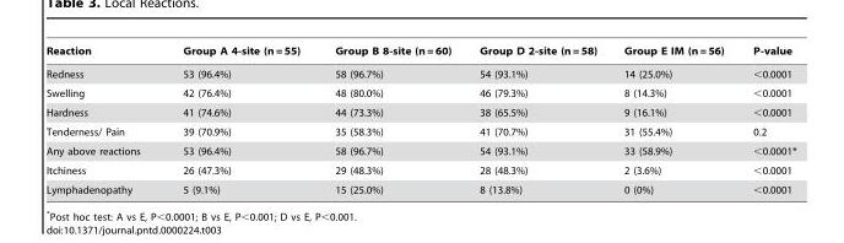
<table><thead><tr><td>Reaction</td><td>Group A 4-site (n = 55)</td><td>Group B 8-site (n = 60)</td><td>Group D 2-site (n = 58)</td><td>Group E IM (n = 56)</td><td>P-value</td></tr></thead><tbody><tr><td>Redness</td><td>53 (96.4%)</td><td>58 (96.7%)</td><td>54 (93.1%)</td><td>14 (25.0%)</td><td>&lt;0.0001</td></tr><tr><td>Swelling</td><td>42 (76.4%)</td><td>48 (80.0%)</td><td>46 (79.3%)</td><td>8 (14.3%)</td><td>&lt;0.0001</td></tr><tr><td>Hardness</td><td>41 (74.6%)</td><td>44 (73.3%)</td><td>38 (65.5%)</td><td>9 (16.1%)</td><td>&lt;0.0001</td></tr><tr><td>Tenderness/ Pain</td><td>39 (70.9%)</td><td>35 (58.3%)</td><td>41 (70.7%)</td><td>31 (55.4%)</td><td>0.2</td></tr><tr><td>Any above reactions</td><td>53 (96.4%)</td><td>58 (96.7%)</td><td>54 (93.1%)</td><td>33 (58.9%)</td><td>&lt;0.0001*</td></tr><tr><td>Itchiness</td><td>26 (47.3%)</td><td>29 (48.3%)</td><td>28 (48.3%)</td><td>2 (3.6%)</td><td>&lt;0.0001</td></tr><tr><td>Lymphadenopathy</td><td>5 (9.1%)</td><td>15 (25.0%)</td><td>8 (13.8%)</td><td>0 (0%)</td><td>&lt;0.0001</td></tr></tbody></table>